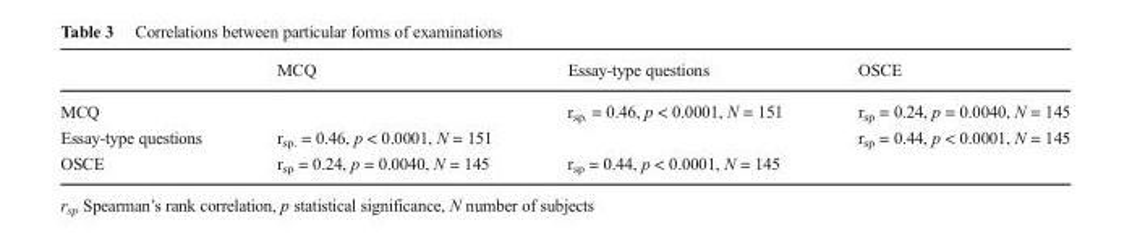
<table><thead><tr><td></td><td>MCQ</td><td>Essay-type questions</td><td>OSCE</td></tr></thead><tbody><tr><td>MCQ</td><td></td><td>r<sub>sp.</sub> = 0.46, p &lt; 0.0001, N = 151</td><td>r<sub>sp</sub> = 0.24, p = 0.0040, N = 145</td></tr><tr><td>Essay-type questions</td><td>r<sub>sp.</sub> = 0.46, p &lt; 0.0001, N = 151</td><td></td><td>r<sub>sp</sub> = 0.44, p &lt; 0.0001, N = 145</td></tr><tr><td>OSCE</td><td>r<sub>sp</sub> = 0.24, p = 0.0040, N = 145</td><td>r<sub>sp</sub> = 0.44, p &lt; 0.0001, N = 145</td><td></td></tr></tbody></table>